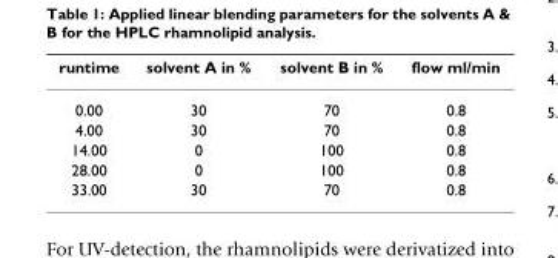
<table><thead><tr><td>runtime</td><td>solvent A in %</td><td>solvent B in %</td><td>flow ml/min</td></tr></thead><tbody><tr><td>0.00</td><td>30</td><td>70</td><td>0.8</td></tr><tr><td>4.00</td><td>30</td><td>70</td><td>0.8</td></tr><tr><td>14.00</td><td>0</td><td>100</td><td>0.8</td></tr><tr><td>28.00</td><td>0</td><td>100</td><td>0.8</td></tr><tr><td>33.00</td><td>30</td><td>70</td><td>0.8</td></tr></tbody></table>